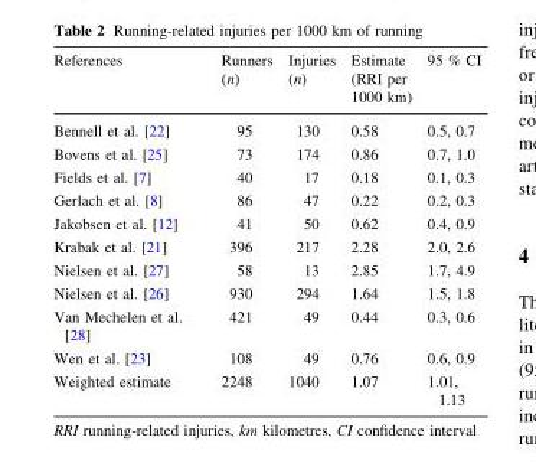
<table><thead><tr><td>References</td><td>Runners (n)</td><td>Injuries (n)</td><td>Estimate (RRI per 1000 km)</td><td>95 % CI</td></tr></thead><tbody><tr><td>Bennell et al. [22]</td><td>95</td><td>130</td><td>0.58</td><td>0.5, 0.7</td></tr><tr><td>Bovens et al. [25]</td><td>73</td><td>174</td><td>0.86</td><td>0.7, 1.0</td></tr><tr><td>Fields et al. [7]</td><td>40</td><td>17</td><td>0.18</td><td>0.1, 0.3</td></tr><tr><td>Gerlach et al. [8]</td><td>86</td><td>47</td><td>0.22</td><td>0.2, 0.3</td></tr><tr><td>Jakobsen et al. [12]</td><td>41</td><td>50</td><td>0.62</td><td>0.4, 0.9</td></tr><tr><td>Krabak et al. [21]</td><td>396</td><td>217</td><td>2.28</td><td>2.0, 2.6</td></tr><tr><td>Nielsen et al. [27]</td><td>58</td><td>13</td><td>2.85</td><td>1.7, 4.9</td></tr><tr><td>Nielsen et al. [26]</td><td>930</td><td>294</td><td>1.64</td><td>1.5, 1.8</td></tr><tr><td>Van Mechelen et al. [28]</td><td>421</td><td>49</td><td>0.44</td><td>0.3, 0.6</td></tr><tr><td>Wen et al. [23]</td><td>108</td><td>49</td><td>0.76</td><td>0.6, 0.9</td></tr><tr><td>Weighted estimate</td><td>2248</td><td>1040</td><td>1.07</td><td>1.01, 1.13</td></tr></tbody></table>